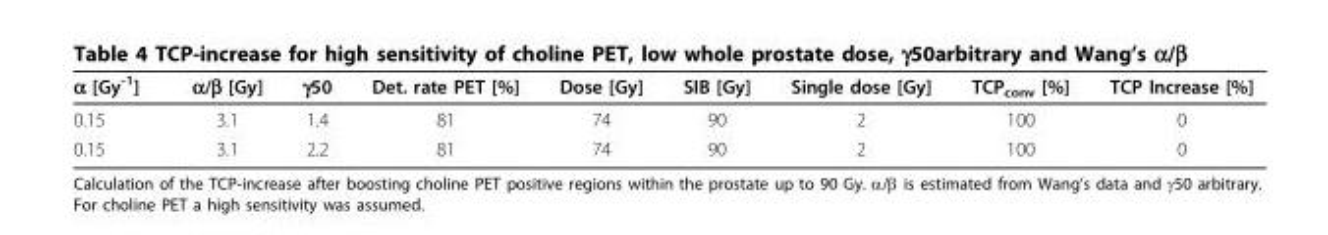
<table><thead><tr><td>α [Gy<sup>-1</sup>]</td><td>α/β [Gy]</td><td>γ50</td><td>Det. rate PET [%]</td><td>Dose [Gy]</td><td>SIB [Gy]</td><td>Single dose [Gy]</td><td>TCP<sub>conv</sub> [%]</td><td>TCP Increase [%]</td></tr></thead><tbody><tr><td>0.15</td><td>3.1</td><td>1.4</td><td>81</td><td>74</td><td>90</td><td>2</td><td>100</td><td>0</td></tr><tr><td>0.15</td><td>3.1</td><td>2.2</td><td>81</td><td>74</td><td>90</td><td>2</td><td>100</td><td>0</td></tr></tbody></table>